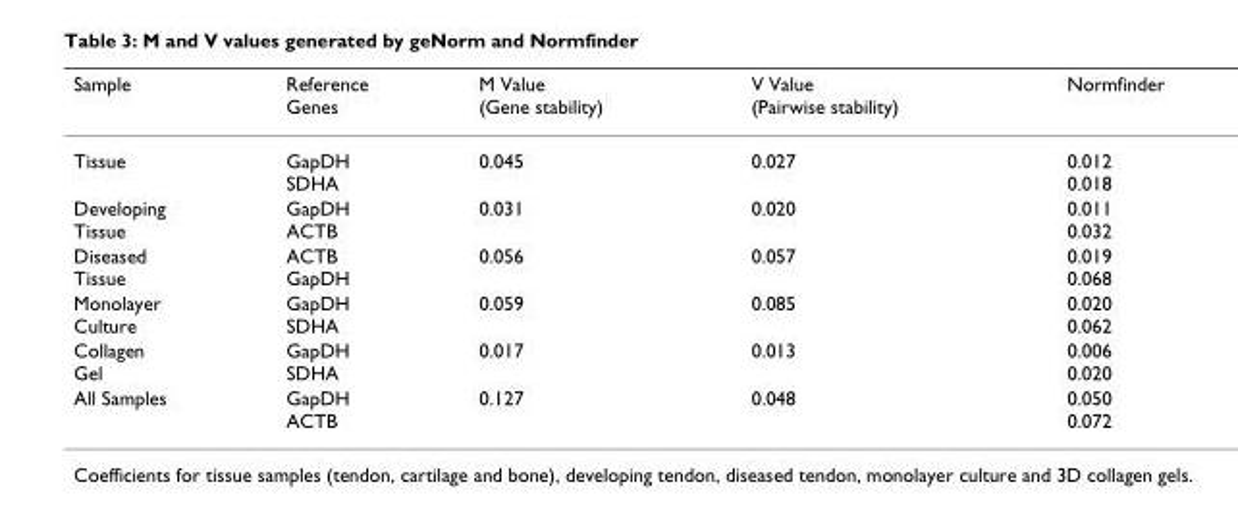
<table><thead><tr><td>Sample</td><td>Reference Genes</td><td>M Value (Gene stability)</td><td>V Value (Pairwise stability)</td><td>Normfinder</td></tr></thead><tbody><tr><td>Tissue</td><td>GapDH SDHA</td><td>0.045</td><td>0.027</td><td>0.012 0.018</td></tr><tr><td>Developing Tissue</td><td>GapDH ACTB</td><td>0.031</td><td>0.020</td><td>0.011 0.032</td></tr><tr><td>Diseased Tissue</td><td>ACTB GapDH</td><td>0.056</td><td>0.057</td><td>0.019 0.068</td></tr><tr><td>Monolayer Culture</td><td>GapDH SDHA</td><td>0.059</td><td>0.085</td><td>0.020 0.062</td></tr><tr><td>Collagen Gel</td><td>GapDH SDHA</td><td>0.017</td><td>0.013</td><td>0.006 0.020</td></tr><tr><td>All Samples</td><td>GapDH ACTB</td><td>0.127</td><td>0.048</td><td>0.050 0.072</td></tr></tbody></table>